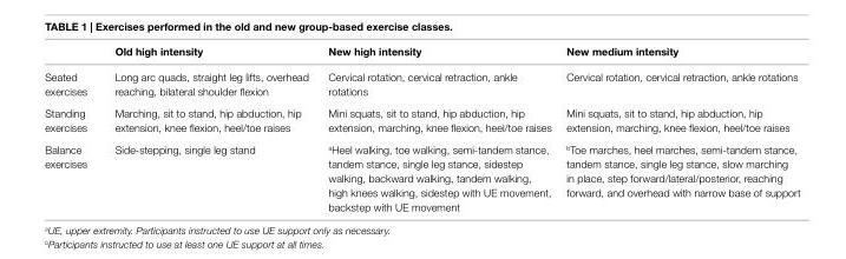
<table><thead><tr><td></td><td>Old high intensity</td><td>new high intensity</td><td>new medium intensity</td></tr></thead><tbody><tr><td>Seated exercises</td><td>Long arc quads, straight leg lifts, overhead reaching, bilateral shoulder flexion</td><td>Cervical rotation, cervical retraction, ankle rotations</td><td>Cervical rotation, cervical retraction, ankle rotations</td></tr><tr><td>Standing exercises</td><td>Marching, sit to stand, hip abduction, hip extension, knee flexion, heel/toe raises</td><td>Mini squats, sit to stand, hip abduction, hip extension, marching, knee flexion, heel/toe raises</td><td>Mini squats, sit to stand, hip abduction, hip extension, marching, knee flexion, heel/toe raises</td></tr><tr><td>Balance exercises</td><td>Side-stepping, single leg stand</td><td><sup>a</sup>Heel walking, toe walking, semi-tandem stance, tandem stance, single leg stance, sidestep walking, backward walking, tandem walking, high knees walking, sidestep with UE movement, backstep with UE movement</td><td><sup>b</sup>Toe marches, heel marches, semi-tandem stance, tandem stance, single leg stance, slow marching in place, step forward/lateral/posterior, reaching forward, and overhead with narrow base of support</td></tr></tbody></table>